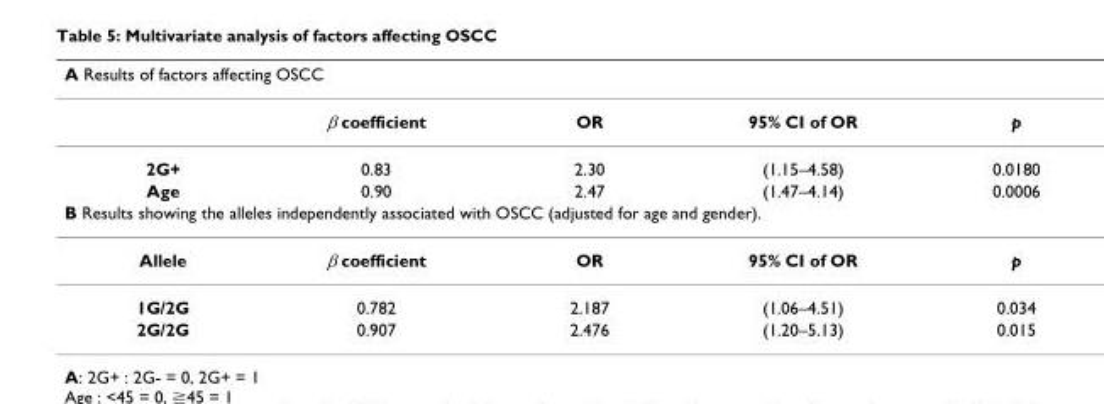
<table><thead><tr><td colspan="5">A Results of factors affecting OSCC</td></tr><tr><td></td><td>β coefficient</td><td>OR</td><td>95% CI of OR</td><td>p</td></tr></thead><tbody><tr><td>2G+</td><td>0.83</td><td>2.30</td><td>(1.15–4.58)</td><td>0.0180</td></tr><tr><td>Age</td><td>0.90</td><td>2.47</td><td>(1.47–4.14)</td><td>0.0006</td></tr><tr><td colspan="5">B Results showing the alleles independently associated with OSCC (adjusted for age and gender).</td></tr><tr><td>Allele</td><td>β coefficient</td><td>OR</td><td>95% CI of OR</td><td>p</td></tr><tr><td>1G/2G</td><td>0.782</td><td>2.187</td><td>(1.06–4.51)</td><td>0.034</td></tr><tr><td>2G/2G</td><td>0.907</td><td>2.476</td><td>(1.20–5.13)</td><td>0.015</td></tr></tbody></table>